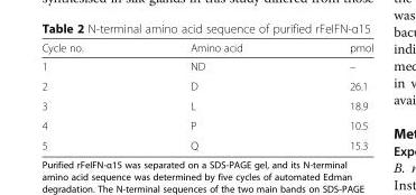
<table><thead><tr><td>Cycle no.</td><td>Amino acid</td><td>pmol</td></tr></thead><tbody><tr><td>1</td><td>ND</td><td>–</td></tr><tr><td>2</td><td>D</td><td>26.1</td></tr><tr><td>3</td><td>L</td><td>18.9</td></tr><tr><td>4</td><td>P</td><td>10.5</td></tr><tr><td>5</td><td>Q</td><td>15.3</td></tr></tbody></table>